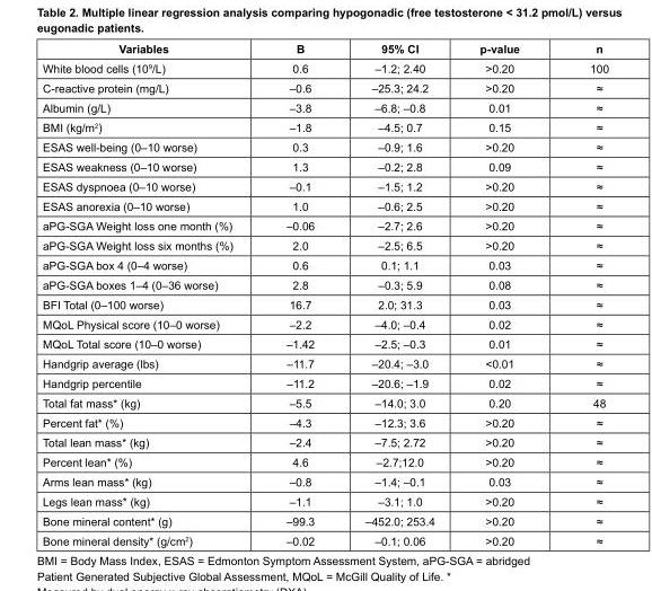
<table><thead><tr><td>Variables</td><td>B</td><td>95% CI</td><td>p-value</td><td>n</td></tr></thead><tbody><tr><td>White blood cells (10<sup>9</sup>/L)</td><td>0.6</td><td>–1.2; 2.40</td><td>&gt;0.20</td><td>100</td></tr><tr><td>C-reactive protein (mg/L)</td><td>–0.6</td><td>–25.3; 24.2</td><td>&gt;0.20</td><td>≈</td></tr><tr><td>Albumin (g/L)</td><td>–3.8</td><td>–6.8; –0.8</td><td>0.01</td><td>≈</td></tr><tr><td>BMI (kg/m<sup>2</sup>)</td><td>–1.8</td><td>–4.5; 0.7</td><td>0.15</td><td>≈</td></tr><tr><td>ESAS well-being (0–10 worse)</td><td>0.3</td><td>–0.9; 1.6</td><td>&gt;0.20</td><td>≈</td></tr><tr><td>ESAS weakness (0–10 worse)</td><td>1.3</td><td>–0.2; 2.8</td><td>0.09</td><td>≈</td></tr><tr><td>ESAS dyspnoea (0–10 worse)</td><td>–0.1</td><td>–1.5; 1.2</td><td>&gt;0.20</td><td>≈</td></tr><tr><td>ESAS anorexia (0–10 worse)</td><td>1.0</td><td>–0.6; 2.5</td><td>&gt;0.20</td><td>≈</td></tr><tr><td>aPG-SGA Weight loss one month (%)</td><td>–0.06</td><td>–2.7; 2.6</td><td>&gt;0.20</td><td>≈</td></tr><tr><td>aPG-SGA Weight loss six months (%)</td><td>2.0</td><td>–2.5; 6.5</td><td>&gt;0.20</td><td>≈</td></tr><tr><td>aPG-SGA box 4 (0–4 worse)</td><td>0.6</td><td>0.1; 1.1</td><td>0.03</td><td>≈</td></tr><tr><td>aPG-SGA boxes 1–4 (0–36 worse)</td><td>2.8</td><td>–0.3; 5.9</td><td>0.08</td><td>≈</td></tr><tr><td>BFI Total (0–100 worse)</td><td>16.7</td><td>2.0; 31.3</td><td>0.03</td><td>≈</td></tr><tr><td>MQoL Physical score (10–0 worse)</td><td>–2.2</td><td>–4.0; –0.4</td><td>0.02</td><td>≈</td></tr><tr><td>MQoL Total score (10–0 worse)</td><td>–1.42</td><td>–2.5; –0.3</td><td>0.01</td><td>≈</td></tr><tr><td>Handgrip average (lbs)</td><td>–11.7</td><td>–20.4; –3.0</td><td>&lt;0.01</td><td>≈</td></tr><tr><td>Handgrip percentile</td><td>–11.2</td><td>–20.6; –1.9</td><td>0.02</td><td>≈</td></tr><tr><td>Total fat mass* (kg)</td><td>–5.5</td><td>–14.0; 3.0</td><td>0.20</td><td>48</td></tr><tr><td>Percent fat* (%)</td><td>–4.3</td><td>–12.3; 3.6</td><td>&gt;0.20</td><td>≈</td></tr><tr><td>Total lean mass* (kg)</td><td>–2.4</td><td>–7.5; 2.72</td><td>&gt;0.20</td><td>≈</td></tr><tr><td>Percent lean* (%)</td><td>4.6</td><td>–2.7;12.0</td><td>&gt;0.20</td><td>≈</td></tr><tr><td>Arms lean mass* (kg)</td><td>–0.8</td><td>–1.4; –0.1</td><td>0.03</td><td>≈</td></tr><tr><td>Legs lean mass* (kg)</td><td>–1.1</td><td>–3.1; 1.0</td><td>&gt;0.20</td><td>≈</td></tr><tr><td>Bone mineral content* (g)</td><td>–99.3</td><td>–452.0; 253.4</td><td>&gt;0.20</td><td>≈</td></tr><tr><td>Bone mineral density* (g/cm<sup>2</sup>)</td><td>–0.02</td><td>–0.1; 0.06</td><td>&gt;0.20</td><td>≈</td></tr></tbody></table>